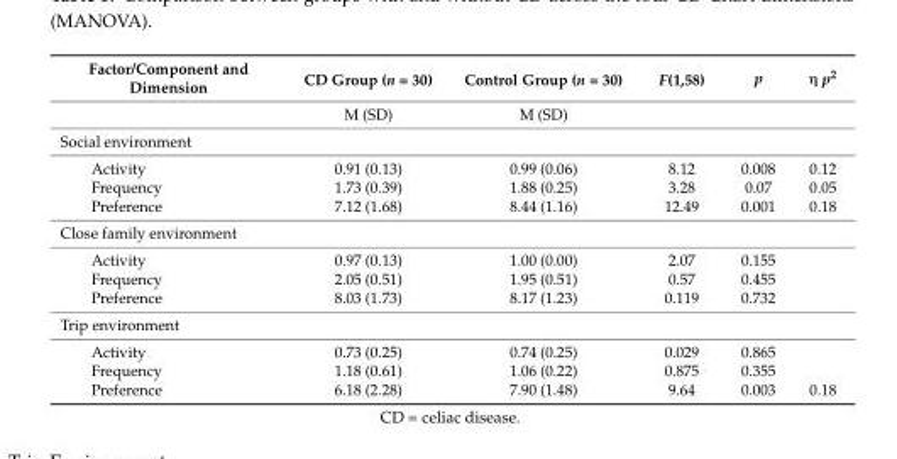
<table><thead><tr><td>Factor/Component and Dimension</td><td>CD Group (n = 30)</td><td>Control Group (n = 30)</td><td>F(1,58)</td><td>p</td><td>η p<sup>2</sup></td></tr></thead><tbody><tr><td></td><td>M (SD)</td><td>M (SD)</td><td></td><td></td><td></td></tr><tr><td colspan="6">Social environment</td></tr><tr><td>Activity</td><td>0.91 (0.13)</td><td>0.99 (0.06)</td><td>8.12</td><td>0.008</td><td>0.12</td></tr><tr><td>Frequency</td><td>1.73 (0.39)</td><td>1.88 (0.25)</td><td>3.28</td><td>0.07</td><td>0.05</td></tr><tr><td>Preference</td><td>7.12 (1.68)</td><td>8.44 (1.16)</td><td>12.49</td><td>0.001</td><td>0.18</td></tr><tr><td colspan="6">Close family environment</td></tr><tr><td>Activity</td><td>0.97 (0.13)</td><td>1.00 (0.00)</td><td>2.07</td><td>0.155</td><td></td></tr><tr><td>Frequency</td><td>2.05 (0.51)</td><td>1.95 (0.51)</td><td>0.57</td><td>0.455</td><td></td></tr><tr><td>Preference</td><td>8.03 (1.73)</td><td>8.17 (1.23)</td><td>0.119</td><td>0.732</td><td></td></tr><tr><td colspan="6">Trip environment</td></tr><tr><td>Activity</td><td>0.73 (0.25)</td><td>0.74 (0.25)</td><td>0.029</td><td>0.865</td><td></td></tr><tr><td>Frequency</td><td>1.18 (0.61)</td><td>1.06 (0.22)</td><td>0.875</td><td>0.355</td><td></td></tr><tr><td>Preference</td><td>6.18 (2.28)</td><td>7.90 (1.48)</td><td>9.64</td><td>0.003</td><td>0.18</td></tr></tbody></table>